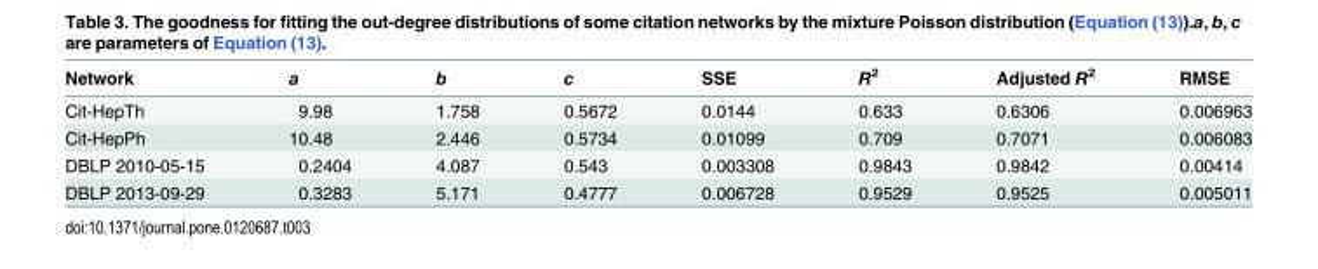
<table><thead><tr><td>Network</td><td>a</td><td>b</td><td>c</td><td>SSE</td><td>R<sup>2</sup></td><td>Adjusted R<sup>2</sup></td><td>RMSE</td></tr></thead><tbody><tr><td>Cit-HepTh</td><td>9.98</td><td>1.758</td><td>0.5672</td><td>0.0144</td><td>0.633</td><td>0.6306</td><td>0.006963</td></tr><tr><td>Cit-HepPh</td><td>10.48</td><td>2.446</td><td>0.5734</td><td>0.01099</td><td>0.709</td><td>0.7071</td><td>0.006083</td></tr><tr><td>DBLP 2010-05-15</td><td>0.2404</td><td>4.087</td><td>0.543</td><td>0.003308</td><td>0.9843</td><td>0.9842</td><td>0.00414</td></tr><tr><td>DBLP 2013-09-29</td><td>0.3283</td><td>5.171</td><td>0.4777</td><td>0.006728</td><td>0.9529</td><td>0.9525</td><td>0.005011</td></tr></tbody></table>